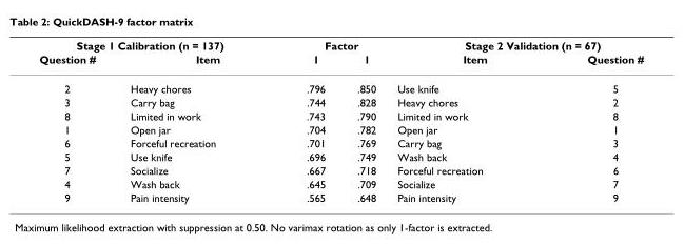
<table><thead><tr><td colspan="2">Stage 1 Calibration (n = 137)</td><td colspan="2">Factor</td><td colspan="2">Stage 2 Validation (n = 67)</td></tr><tr><td>Question #</td><td>Item</td><td>1</td><td>1</td><td>Item</td><td>Question #</td></tr></thead><tbody><tr><td>2</td><td>Heavy chores</td><td>.796</td><td>.850</td><td>Use knife</td><td>5</td></tr><tr><td>3</td><td>Carry bag</td><td>.744</td><td>.828</td><td>Heavy chores</td><td>2</td></tr><tr><td>8</td><td>Limited in work</td><td>.743</td><td>.790</td><td>Limited in work</td><td>8</td></tr><tr><td>1</td><td>Open jar</td><td>.704</td><td>.782</td><td>Open jar</td><td>1</td></tr><tr><td>6</td><td>Forceful recreation</td><td>.701</td><td>.769</td><td>Carry bag</td><td>3</td></tr><tr><td>5</td><td>Use knife</td><td>.696</td><td>.749</td><td>Wash back</td><td>4</td></tr><tr><td>7</td><td>Socialize</td><td>.667</td><td>.718</td><td>Forceful recreation</td><td>6</td></tr><tr><td>4</td><td>Wash back</td><td>.645</td><td>.709</td><td>Socialize</td><td>7</td></tr><tr><td>9</td><td>Pain intensity</td><td>.565</td><td>.648</td><td>Pain intensity</td><td>9</td></tr></tbody></table>